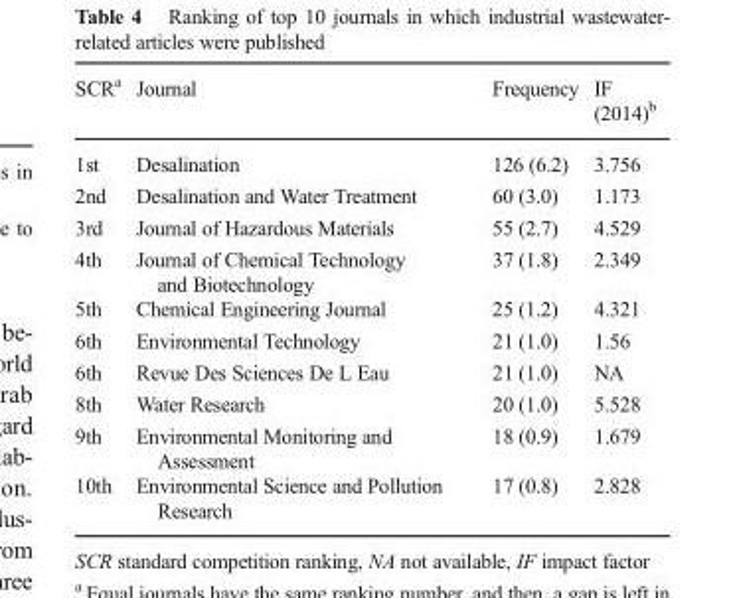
<table><thead><tr><td>SCR<sup>a</sup></td><td>Journal</td><td>Frequency</td><td>IF (2014)<sup>b</sup></td></tr></thead><tbody><tr><td>1st</td><td>Desalination</td><td>126 (6.2)</td><td>3.756</td></tr><tr><td>2nd</td><td>Desalination and Water Treatment</td><td>60 (3.0)</td><td>1.173</td></tr><tr><td>3rd</td><td>Journal of Hazardous Materials</td><td>55 (2.7)</td><td>4.529</td></tr><tr><td>4th</td><td>Journal of Chemical Technology and Biotechnology</td><td>37 (1.8)</td><td>2.349</td></tr><tr><td>5th</td><td>Chemical Engineering Journal</td><td>25 (1.2)</td><td>4.321</td></tr><tr><td>6th</td><td>Environmental Technology</td><td>21 (1.0)</td><td>1.56</td></tr><tr><td>6th</td><td>Revue Des Sciences De L Eau</td><td>21 (1.0)</td><td>NA</td></tr><tr><td>8th</td><td>Water Research</td><td>20 (1.0)</td><td>5.528</td></tr><tr><td>9th</td><td>Environmental Monitoring and Assessment</td><td>18 (0.9)</td><td>1.679</td></tr><tr><td>10th</td><td>Environmental Science and Pollution Research</td><td>17 (0.8)</td><td>2.828</td></tr></tbody></table>